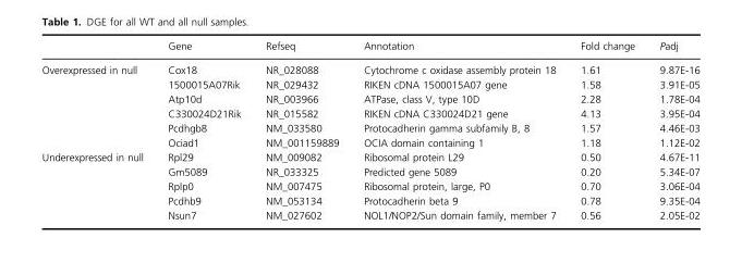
<table><thead><tr><td></td><td>Gene</td><td>Refseq</td><td>Annotation</td><td>Fold change</td><td>Padj</td></tr></thead><tbody><tr><td rowspan="6">Overexpressed in null</td><td>Cox18</td><td>NR_028088</td><td>Cytochrome c oxidase assembly protein 18</td><td>1.61</td><td>9.87E-16</td></tr><tr><td>1500015A07Rik</td><td>NR_029432</td><td>RIKEN cDNA 1500015A07 gene</td><td>1.58</td><td>3.91E-05</td></tr><tr><td>Atp10d</td><td>NR_003966</td><td>ATPase, class V, type 10D</td><td>2.28</td><td>1.78E-04</td></tr><tr><td>C330024D21Rik</td><td>NR_015582</td><td>RIKEN cDNA C330024D21 gene</td><td>4.13</td><td>3.95E-04</td></tr><tr><td>Pcdhgb8</td><td>NM_033580</td><td>Protocadherin gamma subfamily B, 8</td><td>1.57</td><td>4.46E-03</td></tr><tr><td>Ociad1</td><td>NM_001159889</td><td>OCIA domain containing 1</td><td>1.18</td><td>1.12E-02</td></tr><tr><td rowspan="5">Underexpressed in null</td><td>Rpl29</td><td>NM_009082</td><td>Ribosomal protein L29</td><td>0.50</td><td>4.67E-11</td></tr><tr><td>Gm5089</td><td>NR_033325</td><td>Predicted gene 5089</td><td>0.20</td><td>5.34E-07</td></tr><tr><td>Rplp0</td><td>NM_007475</td><td>Ribosomal protein, large, P0</td><td>0.70</td><td>3.06E-04</td></tr><tr><td>Pcdhb9</td><td>NM_053134</td><td>Protocadherin beta 9</td><td>0.78</td><td>9.35E-04</td></tr><tr><td>Nsun7</td><td>NM_027602</td><td>NOL1/NOP2/Sun domain family, member 7</td><td>0.56</td><td>2.05E-02</td></tr></tbody></table>